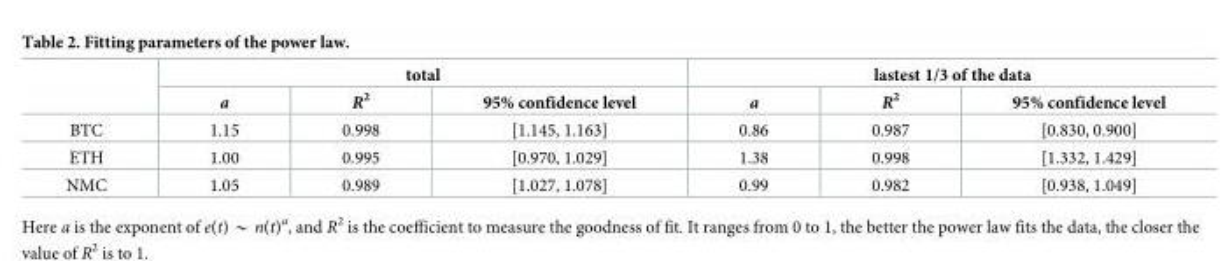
<table><thead><tr><td rowspan="2"></td><td colspan="3">total</td><td colspan="3">lastest 1/3 of the data</td></tr><tr><td>a</td><td>R<sup>2</sup></td><td>95% confidence level</td><td>a</td><td>R<sup>2</sup></td><td>95% confidence level</td></tr></thead><tbody><tr><td>BTC</td><td>1.15</td><td>0.998</td><td>[1.145, 1.163]</td><td>0.86</td><td>0.987</td><td>[0.830, 0.900]</td></tr><tr><td>ETH</td><td>1.00</td><td>0.995</td><td>[0.970, 1.029]</td><td>1.38</td><td>0.998</td><td>[1.332, 1.429]</td></tr><tr><td>NMC</td><td>1.05</td><td>0.989</td><td>[1.027, 1.078]</td><td>0.99</td><td>0.982</td><td>[0.938, 1.049]</td></tr></tbody></table>